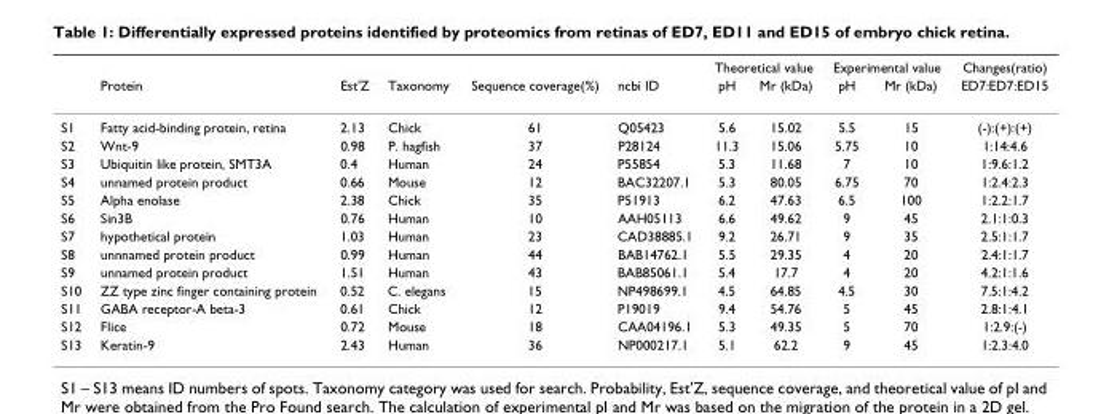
<table><thead><tr><td rowspan="2"></td><td rowspan="2">Protein</td><td rowspan="2">Est&#x27;Z</td><td rowspan="2">Taxonomy</td><td rowspan="2">Sequence coverage(%)</td><td rowspan="2">ncbi ID</td><td colspan="2">Theoretical value</td><td colspan="2">Experimental value</td><td rowspan="2">Changes(ratio) ED7:ED7:ED15</td></tr><tr><td>pH</td><td>Mr (kDa)</td><td>pH</td><td>Mr (kDa)</td></tr></thead><tbody><tr><td>S1</td><td>Fatty acid-binding protein, retina</td><td>2.13</td><td>Chick</td><td>61</td><td>Q05423</td><td>5.6</td><td>15.02</td><td>5.5</td><td>15</td><td>(-):(+):(+)</td></tr><tr><td>S2</td><td>Wnt-9</td><td>0.98</td><td>P. hagfish</td><td>37</td><td>P28124</td><td>11.3</td><td>15.06</td><td>5.75</td><td>10</td><td>1:14:4.6</td></tr><tr><td>S3</td><td>Ubiquitin like protein, SMT3A</td><td>0.4</td><td>Human</td><td>24</td><td>P55854</td><td>5.3</td><td>11.68</td><td>7</td><td>10</td><td>1:9.6:1.2</td></tr><tr><td>S4</td><td>unnamed protein product</td><td>0.66</td><td>Mouse</td><td>12</td><td>BAC32207.1</td><td>5.3</td><td>80.05</td><td>6.75</td><td>70</td><td>1:2.4:2.3</td></tr><tr><td>S5</td><td>Alpha enolase</td><td>2.38</td><td>Chick</td><td>35</td><td>P51913</td><td>6.2</td><td>47.63</td><td>6.5</td><td>100</td><td>1:2.2:1.7</td></tr><tr><td>S6</td><td>Sin3B</td><td>0.76</td><td>Human</td><td>10</td><td>AAH05113</td><td>6.6</td><td>49.62</td><td>9</td><td>45</td><td>2.1:1:0.3</td></tr><tr><td>S7</td><td>hypothetical protein</td><td>1.03</td><td>Human</td><td>23</td><td>CAD38885.1</td><td>9.2</td><td>26.71</td><td>9</td><td>35</td><td>2.5:1:1.7</td></tr><tr><td>S8</td><td>unnnamed protein product</td><td>0.99</td><td>Human</td><td>44</td><td>BAB14762.1</td><td>5.5</td><td>29.35</td><td>4</td><td>20</td><td>2.4:1:1.7</td></tr><tr><td>S9</td><td>unnamed protein product</td><td>1.51</td><td>Human</td><td>43</td><td>BAB85061.1</td><td>5.4</td><td>17.7</td><td>4</td><td>20</td><td>4.2:1:1.6</td></tr><tr><td>S10</td><td>ZZ type zinc finger containing protein</td><td>0.52</td><td>C. elegans</td><td>15</td><td>NP498699.1</td><td>4.5</td><td>64.85</td><td>4.5</td><td>30</td><td>7.5:1:4.2</td></tr><tr><td>S11</td><td>GABA receptor-A beta-3</td><td>0.61</td><td>Chick</td><td>12</td><td>P19019</td><td>9.4</td><td>54.76</td><td>5</td><td>45</td><td>2.8:1:4.1</td></tr><tr><td>S12</td><td>Flice</td><td>0.72</td><td>Mouse</td><td>18</td><td>CAA04196.1</td><td>5.3</td><td>49.35</td><td>5</td><td>70</td><td>1:2.9:(-)</td></tr><tr><td>S13</td><td>Keratin-9</td><td>2.43</td><td>Human</td><td>36</td><td>NP000217.1</td><td>5.1</td><td>62.2</td><td>9</td><td>45</td><td>1:2.3:4.0</td></tr></tbody></table>